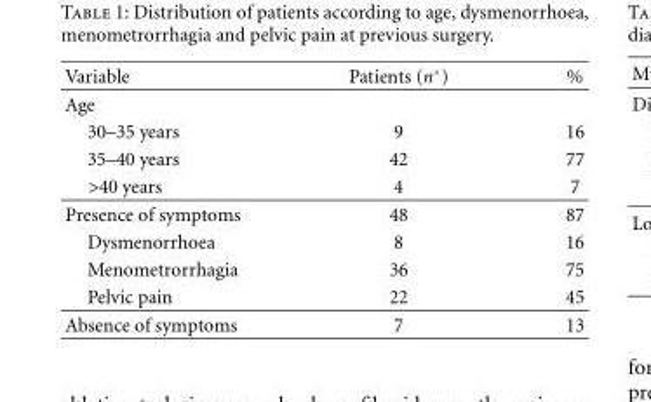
<table><thead><tr><td>Variable</td><td>Patients (n◦)</td><td>%</td></tr></thead><tbody><tr><td colspan="3">Age</td></tr><tr><td>30–35 years</td><td>9</td><td>16</td></tr><tr><td>35–40 years</td><td>42</td><td>77</td></tr><tr><td>&gt;40 years</td><td>4</td><td>7</td></tr><tr><td>Presence of symptoms</td><td>48</td><td>87</td></tr><tr><td>Dysmenorrhoea</td><td>8</td><td>16</td></tr><tr><td>Menometrorrhagia</td><td>36</td><td>75</td></tr><tr><td>Pelvic pain</td><td>22</td><td>45</td></tr><tr><td>Absence of symptoms</td><td>7</td><td>13</td></tr></tbody></table>